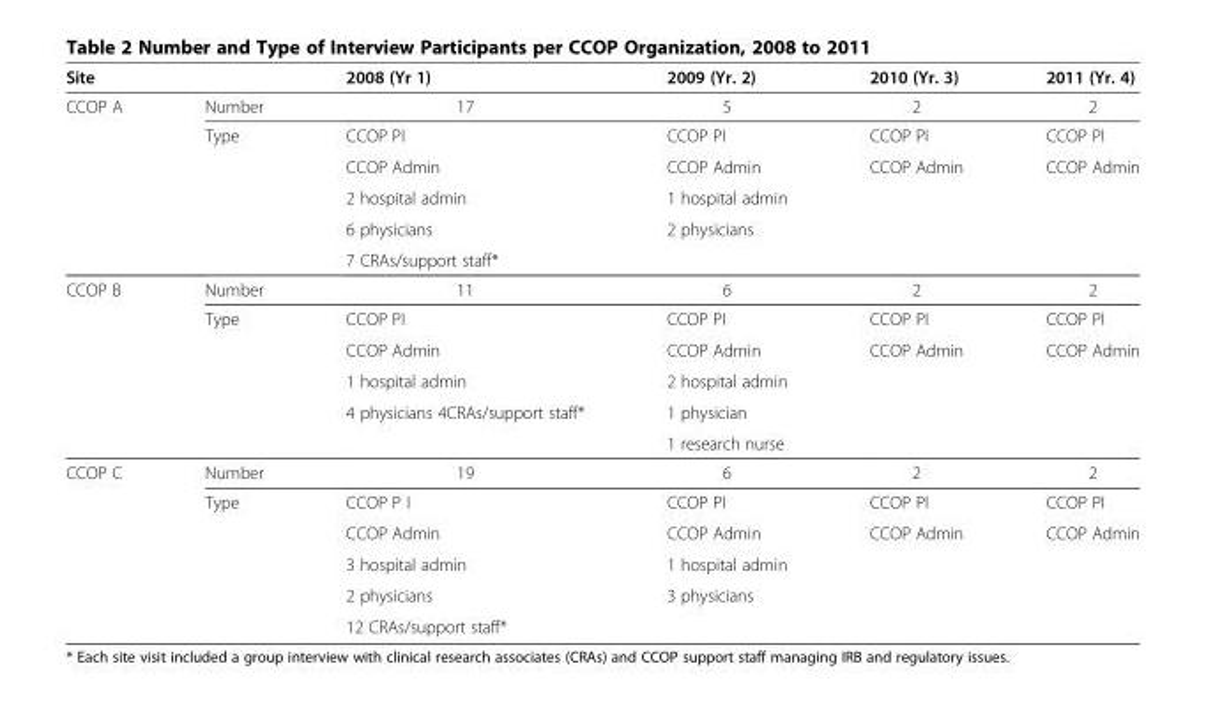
<table><thead><tr><td>Site</td><td></td><td>2008 (Yr 1)</td><td>2009 (Yr. 2)</td><td>2010 (Yr. 3)</td><td>2011 (Yr. 4)</td></tr></thead><tbody><tr><td rowspan="6">CCOP A</td><td>Number</td><td>17</td><td>5</td><td>2</td><td>2</td></tr><tr><td>Type</td><td>CCOP PI</td><td>CCOP PI</td><td>CCOP PI</td><td>CCOP PI</td></tr><tr><td></td><td>CCOP Admin</td><td>CCOP Admin</td><td>CCOP Admin</td><td>CCOP Admin</td></tr><tr><td></td><td>2 hospital admin</td><td>1 hospital admin</td><td></td><td></td></tr><tr><td></td><td>6 physicians</td><td>2 physicians</td><td></td><td></td></tr><tr><td></td><td>7 CRAs/support staff*</td><td></td><td></td><td></td></tr><tr><td rowspan="6">CCOP B</td><td>Number</td><td>11</td><td>6</td><td>2</td><td>2</td></tr><tr><td>Type</td><td>CCOP PI</td><td>CCOP PI</td><td>CCOP PI</td><td>CCOP PI</td></tr><tr><td></td><td>CCOP Admin</td><td>CCOP Admin</td><td>CCOP Admin</td><td>CCOP Admin</td></tr><tr><td></td><td>1 hospital admin</td><td>2 hospital admin</td><td></td><td></td></tr><tr><td></td><td>4 physicians 4CRAs/support staff*</td><td>1 physician</td><td></td><td></td></tr><tr><td></td><td></td><td>1 research nurse</td><td></td><td></td></tr><tr><td rowspan="6">CCOP C</td><td>Number</td><td>19</td><td>6</td><td>2</td><td>2</td></tr><tr><td>Type</td><td>CCOP P I</td><td>CCOP PI</td><td>CCOP PI</td><td>CCOP PI</td></tr><tr><td></td><td>CCOP Admin</td><td>CCOP Admin</td><td>CCOP Admin</td><td>CCOP Admin</td></tr><tr><td></td><td>3 hospital admin</td><td>1 hospital admin</td><td></td><td></td></tr><tr><td></td><td>2 physicians</td><td>3 physicians</td><td></td><td></td></tr><tr><td></td><td>12 CRAs/support staff*</td><td></td><td></td><td></td></tr></tbody></table>